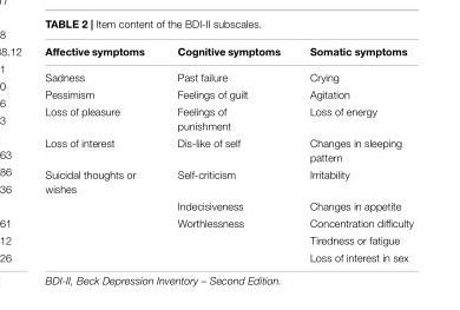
<table><thead><tr><td>Affective symptoms</td><td>Cognitive symptoms</td><td>Somatic symptoms</td></tr></thead><tbody><tr><td>Sadness</td><td>Past failure</td><td>Crying</td></tr><tr><td>Pessimism</td><td>Feelings of guilt</td><td>Agitation</td></tr><tr><td>Loss of pleasure</td><td>Feelings of punishment</td><td>Loss of energy</td></tr><tr><td>Loss of interest</td><td>Dis-like of self</td><td>Changes in sleeping pattern</td></tr><tr><td rowspan="5">Suicidal thoughts or wishes</td><td>Self-criticism</td><td>Irritability</td></tr><tr><td>Indecisiveness</td><td>Changes in appetite</td></tr><tr><td>Worthlessness</td><td>Concentration difficulty</td></tr><tr><td></td><td>Tiredness or fatigue</td></tr><tr><td></td><td>Loss of interest in sex</td></tr></tbody></table>